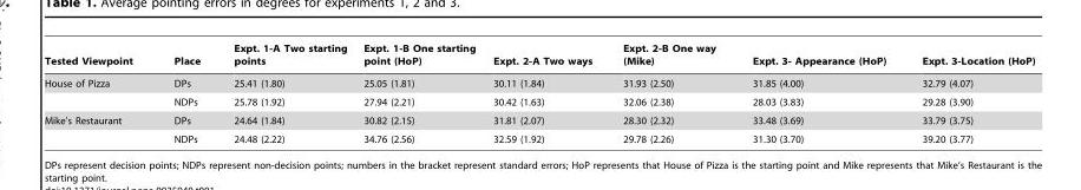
<table><thead><tr><td>Tested Viewpoint</td><td>Place</td><td>Expt. 1-A Two starting points</td><td>Expt. 1-B One starting point (HoP)</td><td>Expt. 2-A Two ways</td><td>Expt. 2-B One way (Mike)</td><td>Expt. 3- Appearance (HoP)</td><td>Expt. 3-Location (HoP)</td></tr></thead><tbody><tr><td rowspan="2">House of Pizza</td><td>DPs</td><td>25.41 (1.80)</td><td>25.05 (1.81)</td><td>30.11 (1.84)</td><td>31.93 (2.50)</td><td>31.85 (4.00)</td><td>32.79 (4.07)</td></tr><tr><td>NDPs</td><td>25.78 (1.92)</td><td>27.94 (2.21)</td><td>30.42 (1.63)</td><td>32.06 (2.38)</td><td>28.03 (3.83)</td><td>29.28 (3.90)</td></tr><tr><td rowspan="2">Mike’s Restaurant</td><td>DPs</td><td>24.64 (1.84)</td><td>30.82 (2.15)</td><td>31.81 (2.07)</td><td>28.30 (2.32)</td><td>33.48 (3.69)</td><td>33.79 (3.75)</td></tr><tr><td>NDPs</td><td>24.48 (2.22)</td><td>34.76 (2.56)</td><td>32.59 (1.92)</td><td>29.78 (2.26)</td><td>31.30 (3.70)</td><td>39.20 (3.77)</td></tr></tbody></table>